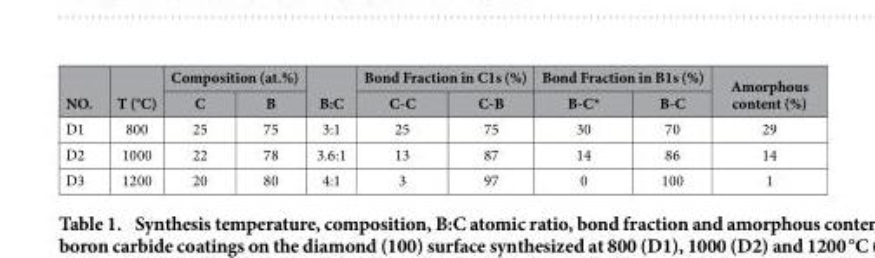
<table><thead><tr><td rowspan="2">NO.</td><td rowspan="2">T (°C)</td><td colspan="2">Composition (at.%)</td><td rowspan="2">B:C</td><td colspan="2">Bond Fraction in C1s (%)</td><td colspan="2">Bond Fraction in B1s (%)</td><td rowspan="2">Amorphous content (%)</td></tr><tr><td>C</td><td>B</td><td>C-C</td><td>C-B</td><td>B-C*</td><td>B-C</td></tr></thead><tbody><tr><td>D1</td><td>800</td><td>25</td><td>75</td><td>3:1</td><td>25</td><td>75</td><td>30</td><td>70</td><td>29</td></tr><tr><td>D2</td><td>1000</td><td>22</td><td>78</td><td>3.6:1</td><td>13</td><td>87</td><td>14</td><td>86</td><td>14</td></tr><tr><td>D3</td><td>1200</td><td>20</td><td>80</td><td>4:1</td><td>3</td><td>97</td><td>0</td><td>100</td><td>1</td></tr></tbody></table>